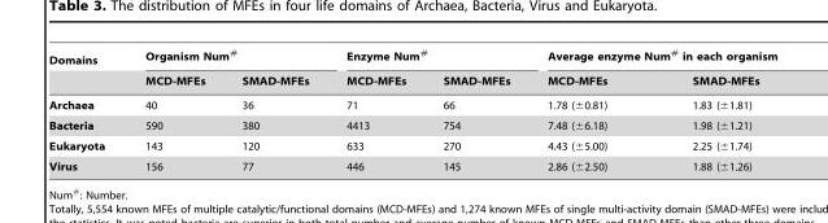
<table><thead><tr><td rowspan="2">Domains</td><td colspan="2">Organism Num<sup>#</sup></td><td colspan="2">Enzyme Num<sup>#</sup></td><td colspan="2">Average enzyme Num<sup>#</sup> in each organism</td></tr><tr><td>MCD-MFEs</td><td>SMAD-MFEs</td><td>MCD-MFEs</td><td>SMAD-MFEs</td><td>MCD-MFEs</td><td>SMAD-MFEs</td></tr></thead><tbody><tr><td>Archaea</td><td>40</td><td>36</td><td>71</td><td>66</td><td>1.78 (±0.81)</td><td>1.83 (±1.81)</td></tr><tr><td>Bacteria</td><td>590</td><td>380</td><td>4413</td><td>754</td><td>7.48 (±6.18)</td><td>1.98 (±1.21)</td></tr><tr><td>Eukaryota</td><td>143</td><td>120</td><td>633</td><td>270</td><td>4.43 (±5.00)</td><td>2.25 (±1.74)</td></tr><tr><td>Virus</td><td>156</td><td>77</td><td>446</td><td>145</td><td>2.86 (±2.50)</td><td>1.88 (±1.26)</td></tr></tbody></table>